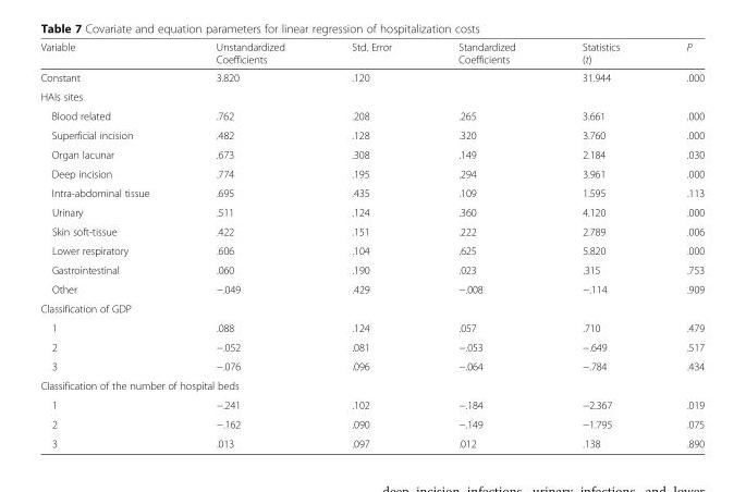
<table><thead><tr><td>Variable</td><td>Unstandardized Coefficients</td><td>Std. Error</td><td>Standardized Coefficients</td><td>Statistics (t)</td><td>P</td></tr></thead><tbody><tr><td>Constant</td><td>3.820</td><td>.120</td><td></td><td>31.944</td><td>.000</td></tr><tr><td colspan="6">HAIs sites</td></tr><tr><td>Blood related</td><td>.762</td><td>.208</td><td>.265</td><td>3.661</td><td>.000</td></tr><tr><td>Superficial incision</td><td>.482</td><td>.128</td><td>.320</td><td>3.760</td><td>.000</td></tr><tr><td>Organ lacunar</td><td>.673</td><td>.308</td><td>.149</td><td>2.184</td><td>.030</td></tr><tr><td>Deep incision</td><td>.774</td><td>.195</td><td>.294</td><td>3.961</td><td>.000</td></tr><tr><td>Intra-abdominal tissue</td><td>.695</td><td>.435</td><td>.109</td><td>1.595</td><td>.113</td></tr><tr><td>Urinary</td><td>.511</td><td>.124</td><td>.360</td><td>4.120</td><td>.000</td></tr><tr><td>Skin soft-tissue</td><td>.422</td><td>.151</td><td>.222</td><td>2.789</td><td>.006</td></tr><tr><td>Lower respiratory</td><td>.606</td><td>.104</td><td>.625</td><td>5.820</td><td>.000</td></tr><tr><td>Gastrointestinal</td><td>.060</td><td>.190</td><td>.023</td><td>.315</td><td>.753</td></tr><tr><td>Other</td><td>−.049</td><td>.429</td><td>−.008</td><td>−.114</td><td>.909</td></tr><tr><td colspan="6">Classification of GDP</td></tr><tr><td>1</td><td>.088</td><td>.124</td><td>.057</td><td>.710</td><td>.479</td></tr><tr><td>2</td><td>−.052</td><td>.081</td><td>−.053</td><td>−.649</td><td>.517</td></tr><tr><td>3</td><td>−.076</td><td>.096</td><td>−.064</td><td>−.784</td><td>.434</td></tr><tr><td colspan="6">Classification of the number of hospital beds</td></tr><tr><td>1</td><td>−.241</td><td>.102</td><td>−.184</td><td>−2.367</td><td>.019</td></tr><tr><td>2</td><td>−.162</td><td>.090</td><td>−.149</td><td>−1.795</td><td>.075</td></tr><tr><td>3</td><td>.013</td><td>.097</td><td>.012</td><td>.138</td><td>.890</td></tr></tbody></table>